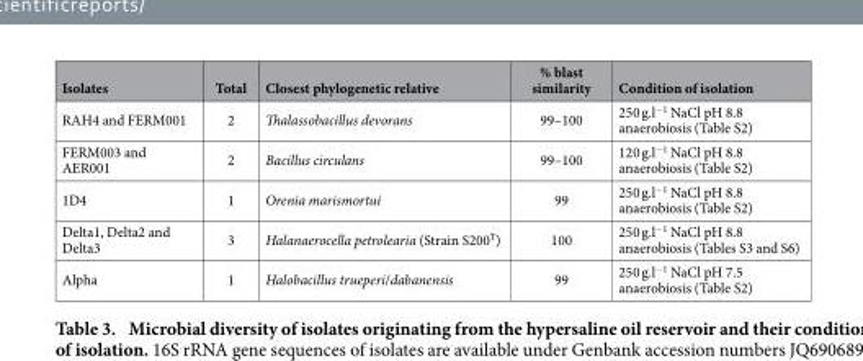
<table><thead><tr><td>Isolates</td><td>Total</td><td>Closest phylogenetic relative</td><td>% blast similarity</td><td>Condition of isolation</td></tr></thead><tbody><tr><td>RAH4 and FERM001</td><td>2</td><td>Thalassobacillus devorans</td><td>99–100</td><td>250 g.l<sup>−1</sup> NaCl pH 8.8 anaerobiosis (Table S2)</td></tr><tr><td>FERM003 and AER001</td><td>2</td><td>Bacillus circulans</td><td>99–100</td><td>120 g.l<sup>−1</sup> NaCl pH 8.8 anaerobiosis (Table S2)</td></tr><tr><td>1D4</td><td>1</td><td>Orenia marismortui</td><td>99</td><td>250 g.l<sup>−1</sup> NaCl pH 8.8 anaerobiosis (Table S2)</td></tr><tr><td>Delta1, Delta2 and Delta3</td><td>3</td><td>Halanaerocella petrolearia (Strain S200<sup>T</sup>)</td><td>100</td><td>250 g.l<sup>−1</sup> NaCl pH 8.8 anaerobiosis (Tables S3 and S6)</td></tr><tr><td>Alpha</td><td>1</td><td>Halobacillus trueperi/dabanensis</td><td>99</td><td>250 g.l<sup>−1</sup> NaCl pH 7.5 anaerobiosis (Table S2)</td></tr></tbody></table>